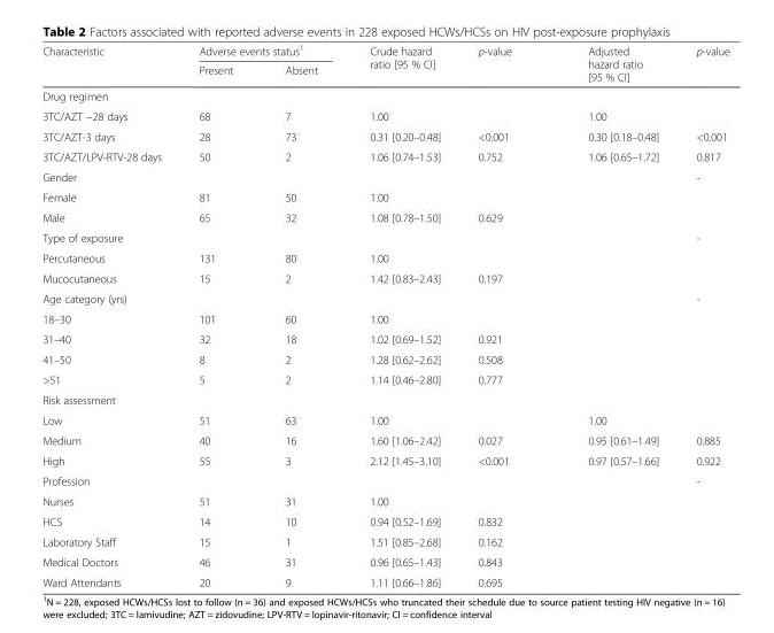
<table><thead><tr><td rowspan="2">Characteristic</td><td colspan="2">Adverse events status<sup>1</sup></td><td rowspan="2">Crude hazard ratio [95 % CI]</td><td rowspan="2">p-value</td><td rowspan="2">Adjusted hazard ratio [95 % CI]</td><td rowspan="2">p-value</td></tr><tr><td>Present</td><td>Absent</td></tr></thead><tbody><tr><td colspan="7">Drug regimen</td></tr><tr><td>3TC/AZT −28 days</td><td>68</td><td>7</td><td>1.00</td><td></td><td>1.00</td><td></td></tr><tr><td>3TC/AZT-3 days</td><td>28</td><td>73</td><td>0.31 [0.20–0.48]</td><td>&lt;0.001</td><td>0.30 [0.18–0.48]</td><td>&lt;0.001</td></tr><tr><td>3TC/AZT/LPV-RTV-28 days</td><td>50</td><td>2</td><td>1.06 [0.74–1.53]</td><td>0.752</td><td>1.06 [0.65–1.72]</td><td>0.817</td></tr><tr><td>Gender</td><td></td><td></td><td></td><td></td><td></td><td>-</td></tr><tr><td>Female</td><td>81</td><td>50</td><td>1.00</td><td></td><td></td><td></td></tr><tr><td>Male</td><td>65</td><td>32</td><td>1.08 [0.78–1.50]</td><td>0.629</td><td></td><td></td></tr><tr><td>Type of exposure</td><td></td><td></td><td></td><td></td><td></td><td>-</td></tr><tr><td>Percutaneous</td><td>131</td><td>80</td><td>1.00</td><td></td><td></td><td></td></tr><tr><td>Mucocutaneous</td><td>15</td><td>2</td><td>1.42 [0.83–2.43]</td><td>0.197</td><td></td><td></td></tr><tr><td>Age category (yrs)</td><td></td><td></td><td></td><td></td><td></td><td>-</td></tr><tr><td>18–30</td><td>101</td><td>60</td><td>1.00</td><td></td><td></td><td></td></tr><tr><td>31–40</td><td>32</td><td>18</td><td>1.02 [0.69–1.52]</td><td>0.921</td><td></td><td></td></tr><tr><td>41–50</td><td>8</td><td>2</td><td>1.28 [0.62–2.62]</td><td>0.508</td><td></td><td></td></tr><tr><td>&gt;51</td><td>5</td><td>2</td><td>1.14 [0.46–2.80]</td><td>0.777</td><td></td><td></td></tr><tr><td colspan="7">Risk assessment</td></tr><tr><td>Low</td><td>51</td><td>63</td><td>1.00</td><td></td><td>1.00</td><td></td></tr><tr><td>Medium</td><td>40</td><td>16</td><td>1.60 [1.06–2.42]</td><td>0.027</td><td>0.95 [0.61–1.49]</td><td>0.885</td></tr><tr><td>High</td><td>55</td><td>3</td><td>2.12 [1.45–3.10]</td><td>&lt;0.001</td><td>0.97 [0.57–1.66]</td><td>0.922</td></tr><tr><td>Profession</td><td></td><td></td><td></td><td></td><td></td><td>-</td></tr><tr><td>Nurses</td><td>51</td><td>31</td><td>1.00</td><td></td><td></td><td></td></tr><tr><td>HCS</td><td>14</td><td>10</td><td>0.94 [0.52–1.69]</td><td>0.832</td><td></td><td></td></tr><tr><td>Laboratory Staff</td><td>15</td><td>1</td><td>1.51 [0.85–2.68]</td><td>0.162</td><td></td><td></td></tr><tr><td>Medical Doctors</td><td>46</td><td>31</td><td>0.96 [0.65–1.43]</td><td>0.843</td><td></td><td></td></tr><tr><td>Ward Attendants</td><td>20</td><td>9</td><td>1.11 [0.66–1.86]</td><td>0.695</td><td></td><td></td></tr></tbody></table>